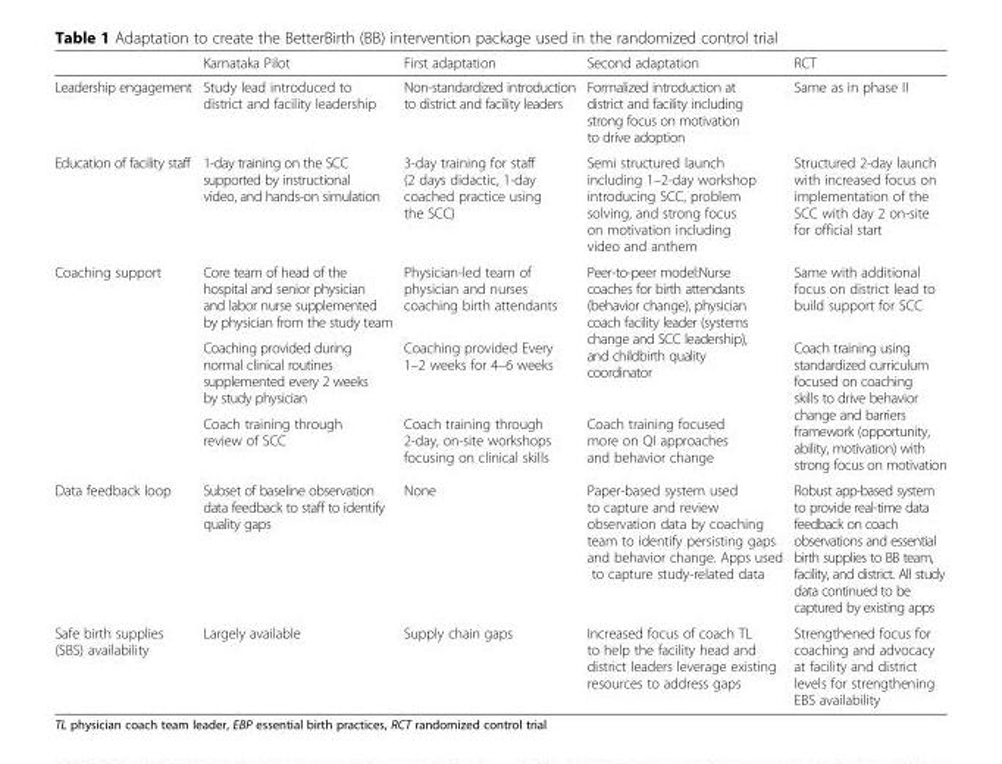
<table><thead><tr><td></td><td>Karnataka Pilot</td><td>First adaptation</td><td>Second adaptation</td><td>RCT</td></tr></thead><tbody><tr><td>Leadership engagement</td><td>Study lead introduced to district and facility leadership</td><td>Non-standardized introduction to district and facility leaders</td><td>Formalized introduction at district and facility including strong focus on motivation to drive adoption</td><td>Same as in phase II</td></tr><tr><td>Education of facility staff</td><td>1-day training on the SCC supported by instructional video, and hands-on simulation</td><td>3-day training for staff (2 days didactic, 1-day coached practice using the SCC)</td><td>Semi structured launch including 1–2-day workshop introducing SCC, problem solving, and strong focus on motivation including video and anthem</td><td>Structured 2-day launch with increased focus on implementation of the SCC with day 2 on-site for official start</td></tr><tr><td rowspan="3">Coaching support</td><td>Core team of head of the hospital and senior physician and labor nurse supplemented by physician from the study team</td><td>Physician-led team of physician and nurses coaching birth attendants</td><td rowspan="2">Peer-to-peer model:Nurse coaches for birth attendants (behavior change), physician coach facility leader (systems change and SCC leadership), and childbirth quality coordinator</td><td>Same with additional focus on district lead to build support for SCC</td></tr><tr><td>Coaching provided during normal clinical routines supplemented every 2 weeks by study physician</td><td>Coaching provided Every 1–2 weeks for 4–6 weeks</td><td rowspan="2">Coach training using standardized curriculum focused on coaching skills to drive behavior change and barriers framework (opportunity, ability, motivation) with strong focus on motivation</td></tr><tr><td>Coach training through review of SCC</td><td>Coach training through 2-day, on-site workshops focusing on clinical skills</td><td>Coach training focused more on QI approaches and behavior change</td></tr><tr><td>Data feedback loop</td><td>Subset of baseline observation data feedback to staff to identify quality gaps</td><td>None</td><td>Paper-based system used to capture and review observation data by coaching team to identify persisting gaps and behavior change. Apps used to capture study-related data</td><td>Robust app-based system to provide real-time data feedback on coach observations and essential birth supplies to BB team, facility, and district. All study data continued to be captured by existing apps</td></tr><tr><td>Safe birth supplies (SBS) availability</td><td>Largely available</td><td>Supply chain gaps</td><td>Increased focus of coach TL to help the facility head and district leaders leverage existing resources to address gaps</td><td>Strengthened focus for coaching and advocacy at facility and district levels for strengthening EBS availability</td></tr></tbody></table>